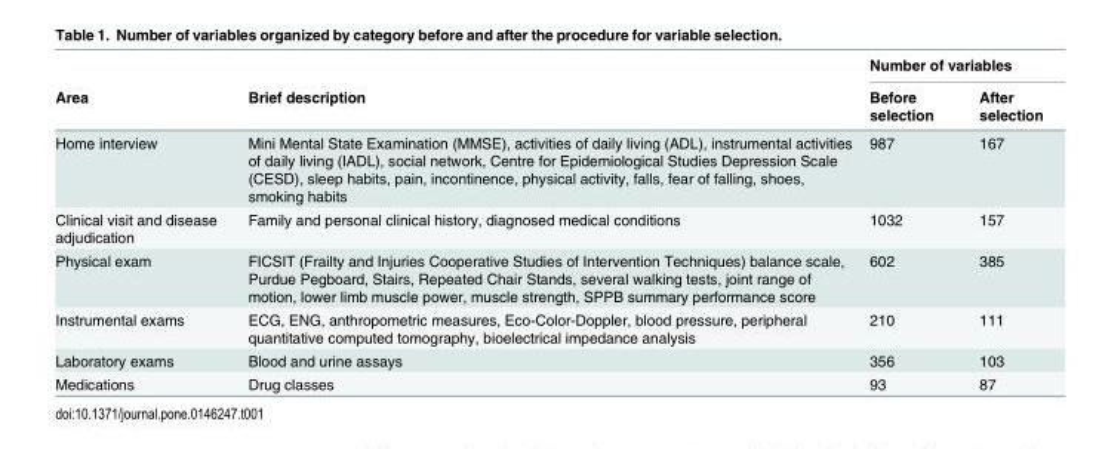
<table><thead><tr><td rowspan="2">Area</td><td rowspan="2">Brief description</td><td colspan="2">Number of variables</td></tr><tr><td>Before selection</td><td>After selection</td></tr></thead><tbody><tr><td>Home interview</td><td>Mini Mental State Examination (MMSE), activities of daily living (ADL), instrumental activities of daily living (IADL), social network, Centre for Epidemiological Studies Depression Scale (CESD), sleep habits, pain, incontinence, physical activity, falls, fear of falling, shoes, smoking habits</td><td>987</td><td>167</td></tr><tr><td>Clinical visit and disease adjudication</td><td>Family and personal clinical history, diagnosed medical conditions</td><td>1032</td><td>157</td></tr><tr><td>Physical exam</td><td>FICSIT (Frailty and Injuries Cooperative Studies of Intervention Techniques) balance scale, Purdue Pegboard, Stairs, Repeated Chair Stands, several walking tests, joint range of motion, lower limb muscle power, muscle strength, SPPB summary performance score</td><td>602</td><td>385</td></tr><tr><td>Instrumental exams</td><td>ECG, ENG, anthropometric measures, Eco-Color-Doppler, blood pressure, peripheral quantitative computed tomography, bioelectrical impedance analysis</td><td>210</td><td>111</td></tr><tr><td>Laboratory exams</td><td>Blood and urine assays</td><td>356</td><td>103</td></tr><tr><td>Medications</td><td>Drug classes</td><td>93</td><td>87</td></tr></tbody></table>